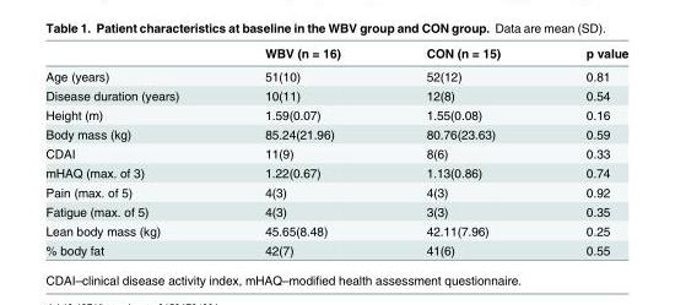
<table><thead><tr><td></td><td>WBV (n = 16)</td><td>CON (n = 15)</td><td>p value</td></tr></thead><tbody><tr><td>Age (years)</td><td>51(10)</td><td>52(12)</td><td>0.81</td></tr><tr><td>Disease duration (years)</td><td>10(11)</td><td>12(8)</td><td>0.54</td></tr><tr><td>Height (m)</td><td>1.59(0.07)</td><td>1.55(0.08)</td><td>0.16</td></tr><tr><td>Body mass (kg)</td><td>85.24(21.96)</td><td>80.76(23.63)</td><td>0.59</td></tr><tr><td>CDAI</td><td>11(9)</td><td>8(6)</td><td>0.33</td></tr><tr><td>mHAQ (max. of 3)</td><td>1.22(0.67)</td><td>1.13(0.86)</td><td>0.74</td></tr><tr><td>Pain (max. of 5)</td><td>4(3)</td><td>4(3)</td><td>0.92</td></tr><tr><td>Fatigue (max. of 5)</td><td>4(3)</td><td>3(3)</td><td>0.35</td></tr><tr><td>Lean body mass (kg)</td><td>45.65(8.48)</td><td>42.11(7.96)</td><td>0.25</td></tr><tr><td>% body fat</td><td>42(7)</td><td>41(6)</td><td>0.55</td></tr></tbody></table>